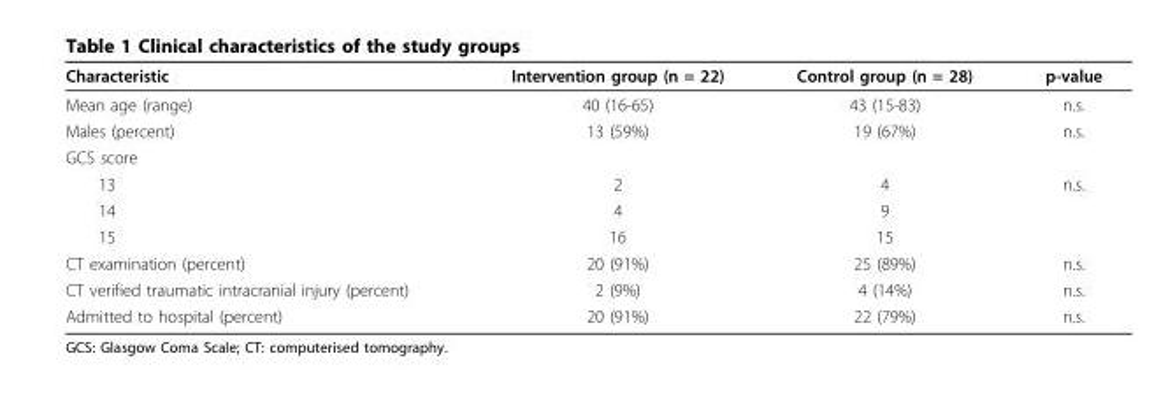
<table><thead><tr><td>Characteristic</td><td>Intervention group (n = 22)</td><td>Control group (n = 28)</td><td>p-value</td></tr></thead><tbody><tr><td>Mean age (range)</td><td>40 (16-65)</td><td>43 (15-83)</td><td>n.s.</td></tr><tr><td>Males (percent)</td><td>13 (59%)</td><td>19 (67%)</td><td>n.s.</td></tr><tr><td colspan="4">GCS score</td></tr><tr><td>13</td><td>2</td><td>4</td><td>n.s.</td></tr><tr><td>14</td><td>4</td><td>9</td><td></td></tr><tr><td>15</td><td>16</td><td>15</td><td></td></tr><tr><td>CT examination (percent)</td><td>20 (91%)</td><td>25 (89%)</td><td>n.s.</td></tr><tr><td>CT verified traumatic intracranial injury (percent)</td><td>2 (9%)</td><td>4 (14%)</td><td>n.s.</td></tr><tr><td>Admitted to hospital (percent)</td><td>20 (91%)</td><td>22 (79%)</td><td>n.s.</td></tr></tbody></table>